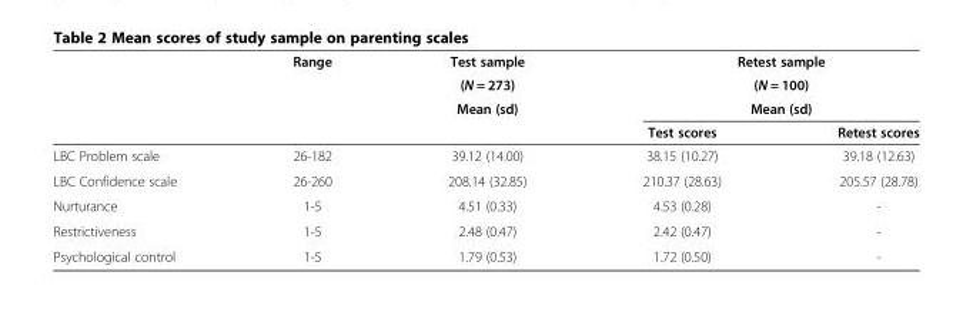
<table><thead><tr><td rowspan="4"></td><td rowspan="4">Range</td><td rowspan="4">Test sample (N = 273) Mean (sd)</td><td rowspan="3" colspan="2">Retest sample (N = 100) Mean (sd)</td></tr><tr></tr><tr></tr><tr><td>Test scores</td><td>Retest scores</td></tr></thead><tbody><tr><td>LBC Problem scale</td><td>26-182</td><td>39.12 (14.00)</td><td>38.15 (10.27)</td><td>39.18 (12.63)</td></tr><tr><td>LBC Confidence scale</td><td>26-260</td><td>208.14 (32.85)</td><td>210.37 (28.63)</td><td>205.57 (28.78)</td></tr><tr><td>Nurturance</td><td>1-5</td><td>4.51 (0.33)</td><td>4.53 (0.28)</td><td>-</td></tr><tr><td>Restrictiveness</td><td>1-5</td><td>2.48 (0.47)</td><td>2.42 (0.47)</td><td>-</td></tr><tr><td>Psychological control</td><td>1-5</td><td>1.79 (0.53)</td><td>1.72 (0.50)</td><td>-</td></tr></tbody></table>